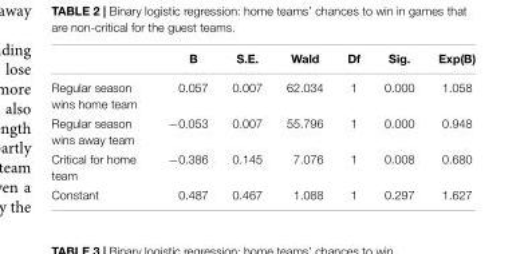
<table><thead><tr><td></td><td>B</td><td>S.E.</td><td>Wald</td><td>Df</td><td>Sig.</td><td>Exp(B)</td></tr></thead><tbody><tr><td>Regular season wins home team</td><td>0.057</td><td>0.007</td><td>62.034</td><td>1</td><td>0.000</td><td>1.058</td></tr><tr><td>Regular season wins away team</td><td>−0.053</td><td>0.007</td><td>55.796</td><td>1</td><td>0.000</td><td>0.948</td></tr><tr><td>Critical for home team</td><td>−0.386</td><td>0.145</td><td>7.076</td><td>1</td><td>0.008</td><td>0.680</td></tr><tr><td>Constant</td><td>0.487</td><td>0.467</td><td>1.088</td><td>1</td><td>0.297</td><td>1.627</td></tr></tbody></table>